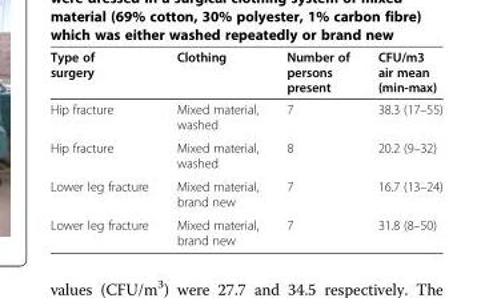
<table><thead><tr><td>Type of surgery</td><td>Clothing</td><td>Number of persons present</td><td>CFU/m3 air mean (min-max)</td></tr></thead><tbody><tr><td>Hip fracture</td><td>Mixed material, washed</td><td>7</td><td>38.3 (17–55)</td></tr><tr><td>Hip fracture</td><td>Mixed material, washed</td><td>8</td><td>20.2 (9–32)</td></tr><tr><td>Lower leg fracture</td><td>Mixed material, brand new</td><td>7</td><td>16.7 (13–24)</td></tr><tr><td>Lower leg fracture</td><td>Mixed material, brand new</td><td>7</td><td>31.8 (8–50)</td></tr></tbody></table>